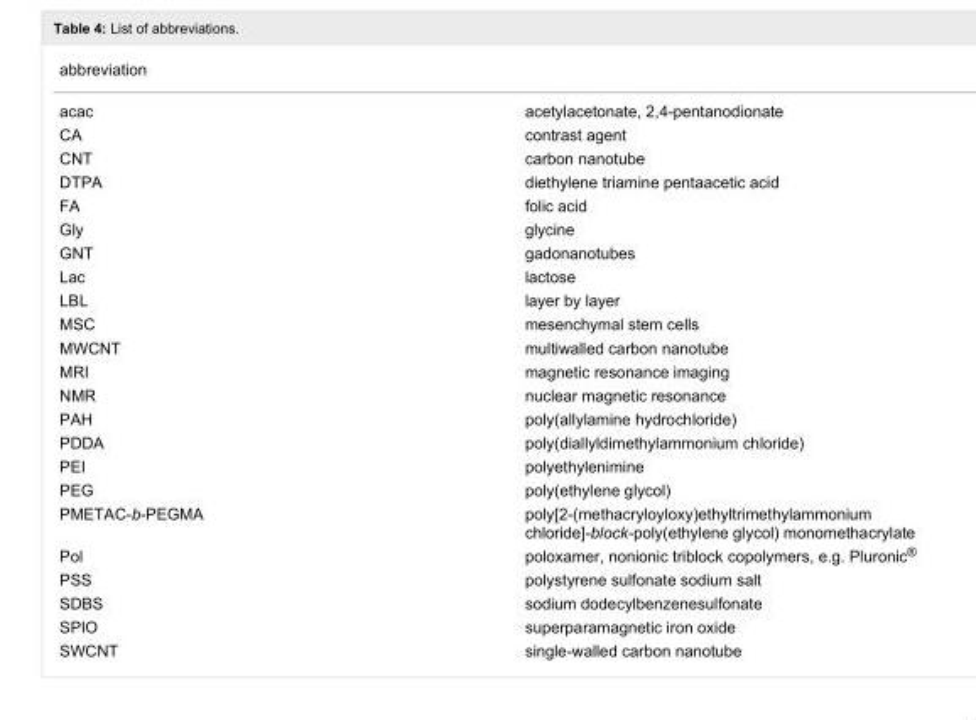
<table><tbody><tr><td colspan="2">abbreviation</td></tr><tr><td>acac</td><td>acetylacetonate, 2,4-pentanodionate</td></tr><tr><td>CA</td><td>contrast agent</td></tr><tr><td>CNT</td><td>carbon nanotube</td></tr><tr><td>DTPA</td><td>diethylene triamine pentaacetic acid</td></tr><tr><td>FA</td><td>folic acid</td></tr><tr><td>Gly</td><td>glycine</td></tr><tr><td>GNT</td><td>gadonanotubes</td></tr><tr><td>Lac</td><td>lactose</td></tr><tr><td>LBL</td><td>layer by layer</td></tr><tr><td>MSC</td><td>mesenchymal stem cells</td></tr><tr><td>MWCNT</td><td>multiwalled carbon nanotube</td></tr><tr><td>MRI</td><td>magnetic resonance imaging</td></tr><tr><td>NMR</td><td>nuclear magnetic resonance</td></tr><tr><td>PAH</td><td>poly(allylamine hydrochloride)</td></tr><tr><td>PDDA</td><td>poly(diallyldimethylammonium chloride)</td></tr><tr><td>PEI</td><td>polyethylenimine</td></tr><tr><td>PEG</td><td>poly(ethylene glycol)</td></tr><tr><td>PMETAC-b-PEGMA</td><td>poly[2-(methacryloyloxy)ethyltrimethylammonium chloride]-block-poly(ethylene glycol) monomethacrylate</td></tr><tr><td>Pol</td><td>poloxamer, nonionic triblock copolymers, e.g. Pluronic<sup>®</sup></td></tr><tr><td>PSS</td><td>polystyrene sulfonate sodium salt</td></tr><tr><td>SDBS</td><td>sodium dodecylbenzenesulfonate</td></tr><tr><td>SPIO</td><td>superparamagnetic iron oxide</td></tr><tr><td>SWCNT</td><td>single-walled carbon nanotube</td></tr></tbody></table>